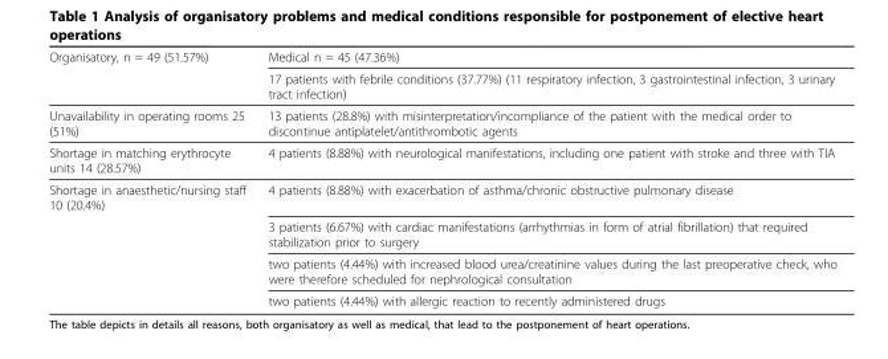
<table><thead><tr><td rowspan="2">Organisatory, n = 49 (51.57%)</td><td rowspan="2">Medical n = 45 (47.36%) 17 patients with febrile conditions (37.77%) (11 respiratory infection, 3 gastrointestinal infection, 3 urinary tract infection)</td></tr><tr></tr></thead><tbody><tr><td>Unavailability in operating rooms 25 (51%)</td><td>13 patients (28.8%) with misinterpretation/incompliance of the patient with the medical order to discontinue antiplatelet/antithrombotic agents</td></tr><tr><td>Shortage in matching erythrocyte units 14 (28.57%)</td><td>4 patients (8.88%) with neurological manifestations, including one patient with stroke and three with TIA</td></tr><tr><td rowspan="4">Shortage in anaesthetic/nursing staff 10 (20.4%)</td><td>4 patients (8.88%) with exacerbation of asthma/chronic obstructive pulmonary disease</td></tr><tr><td>3 patients (6.67%) with cardiac manifestations (arrhythmias in form of atrial fibrillation) that required stabilization prior to surgery</td></tr><tr><td>two patients (4.44%) with increased blood urea/creatinine values during the last preoperative check, who were therefore scheduled for nephrological consultation</td></tr><tr><td>two patients (4.44%) with allergic reaction to recently administered drugs</td></tr></tbody></table>